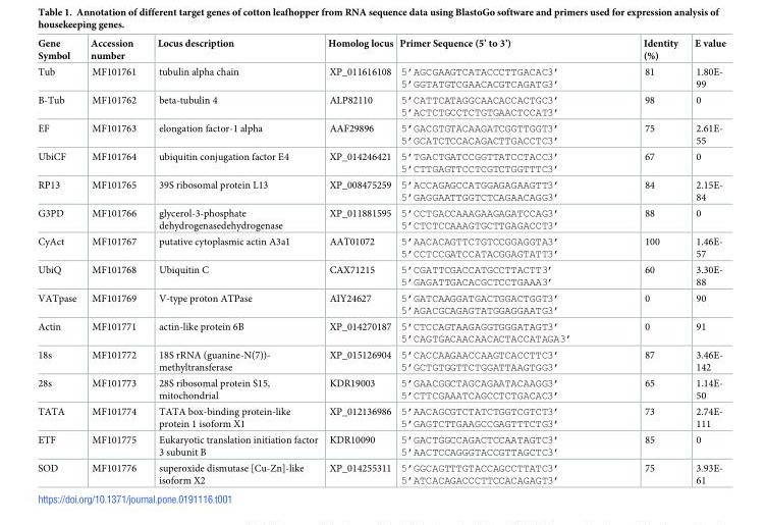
<table><thead><tr><td>Gene Symbol</td><td>Accession number</td><td>Locus description</td><td>Homolog locus</td><td>Primer Sequence (5’ to 3’)</td><td>Identity (%)</td><td>E value</td></tr></thead><tbody><tr><td>Tub</td><td>MF101761</td><td>tubulin alpha chain</td><td>XP_011616108</td><td>5’AGCGAAGTCATACCCTTGACAC3’ 5’GGTATGTCGAACACGTCAGATG3’</td><td>81</td><td>1.80E- 99</td></tr><tr><td>B-Tub</td><td>MF101762</td><td>beta-tubulin 4</td><td>ALP82110</td><td>5’CATTCATAGGCAACACCACTGC3’ 5’ACTCTGCCTCTGTGAACTCCAT3’</td><td>98</td><td>0</td></tr><tr><td>EF</td><td>MF101763</td><td>elongation factor-1 alpha</td><td>AAF29896</td><td>5’GACGTGTACAAGATCGGTTGGT3’ 5’GCATCTCCACAGACTTGACCTC3’</td><td>75</td><td>2.61E- 55</td></tr><tr><td>UbiCF</td><td>MF101764</td><td>ubiquitin conjugation factor E4</td><td>XP_014246421</td><td>5’TGACTGATCCGGTTATCCTACC3’ 5’CTTGAGTTCCTCGTCTGGTTTC3’</td><td>67</td><td>0</td></tr><tr><td>RP13</td><td>MF101765</td><td>39S ribosomal protein L13</td><td>XP_008475259</td><td>5’ACCAGAGCCATGGAGAGAAGTT3’ 5’GAGGAATTGGTCTCAGAACAGG3’</td><td>84</td><td>2.15E- 84</td></tr><tr><td>G3PD</td><td>MF101766</td><td>glycerol-3-phosphate dehydrogenasedehydrogenase</td><td>XP_011881595</td><td>5’CCTGACCAAAGAAGAGATCCAG3’ 5’CTCTCCAAAGTGCTTGAGACCT3’</td><td>88</td><td>0</td></tr><tr><td>CyAct</td><td>MF101767</td><td>putative cytoplasmic actin A3a1</td><td>AAT01072</td><td>5’AACACAGTTCTGTCCGGAGGTA3’ 5’CCTCCGATCCATACGGAGTATT3’</td><td>100</td><td>1.46E- 57</td></tr><tr><td>UbiQ</td><td>MF101768</td><td>Ubiquitin C</td><td>CAX71215</td><td>5’CGATTCGACCATGCCTTACTT3’ 5’GAGATTGACACGCTCCTGAAA3’</td><td>60</td><td>3.30E- 88</td></tr><tr><td>VATpase</td><td>MF101769</td><td>V-type proton ATPase</td><td>AIY24627</td><td>5’GATCAAGGATGACTGGACTGGT3’ 5’AGACGCAGAGTATGGAGGAATG3’</td><td>0</td><td>90</td></tr><tr><td>Actin</td><td>MF101771</td><td>actin-like protein 6B</td><td>XP_014270187</td><td>5’CTCCAGTAAGAGGTGGGATAGT3’ 5’CAGTGACAACAACACTACCATAGA3’</td><td>0</td><td>91</td></tr><tr><td>18s</td><td>MF101772</td><td>18S rRNA (guanine-N(7))- methyltransferase</td><td>XP_015126904</td><td>5’CACCAAGAACCAAGTCACCTTC3’ 5’GCTGTGGTTCTGGATTAAGTGG3’</td><td>87</td><td>3.46E- 142</td></tr><tr><td>28s</td><td>MF101773</td><td>28S ribosomal protein S15, mitochondrial</td><td>KDR19003</td><td>5’GAACGGCTAGCAGAATACAAGG3’ 5’CTTCGAAATCAGCCTCTGACAC3’</td><td>65</td><td>1.14E- 50</td></tr><tr><td>TATA</td><td>MF101774</td><td>TATA box-binding protein-like protein 1 isoform X1</td><td>XP_012136986</td><td>5’AACAGCGTCTATCTGGTCGTCT3’ 5’GAGTCTTGAAGCCGAGTTTCTG3’</td><td>73</td><td>2.74E- 111</td></tr><tr><td>ETF</td><td>MF101775</td><td>Eukaryotic translation initiation factor 3 subunit B</td><td>KDR10090</td><td>5’GACTGGCCAGACTCCAATAGTC3’ 5’AACTCCAGGGTACCGTTAGCTC3’</td><td>85</td><td>0</td></tr><tr><td>SOD</td><td>MF101776</td><td>superoxide dismutase [Cu-Zn]-like isoform X2</td><td>XP_014255311</td><td>5’GGCAGTTTGTACCAGCCTTATC3’ 5’ATCACAGACCCTTCCACAGAGT3’</td><td>75</td><td>3.93E- 61</td></tr></tbody></table>